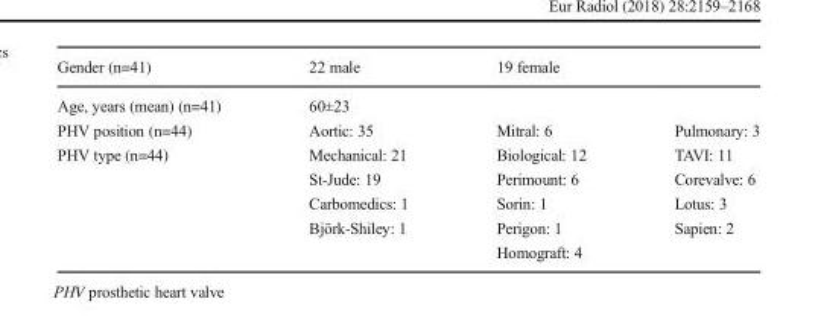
<table><thead><tr><td>Gender (n=41)</td><td>22 male</td><td>19 female</td><td></td></tr></thead><tbody><tr><td>Age, years (mean) (n=41)</td><td>60±23</td><td></td><td></td></tr><tr><td>PHV position (n=44)</td><td>Aortic: 35</td><td>Mitral: 6</td><td>Pulmonary: 3</td></tr><tr><td rowspan="5">PHV type (n=44)</td><td>Mechanical: 21</td><td>Biological: 12</td><td>TAVI: 11</td></tr><tr><td>St-Jude: 19</td><td>Perimount: 6</td><td>Corevalve: 6</td></tr><tr><td>Carbomedics: 1</td><td>Sorin: 1</td><td>Lotus: 3</td></tr><tr><td>Björk-Shiley: 1</td><td>Perigon: 1</td><td>Sapien: 2</td></tr><tr><td></td><td>Homograft: 4</td><td></td></tr></tbody></table>